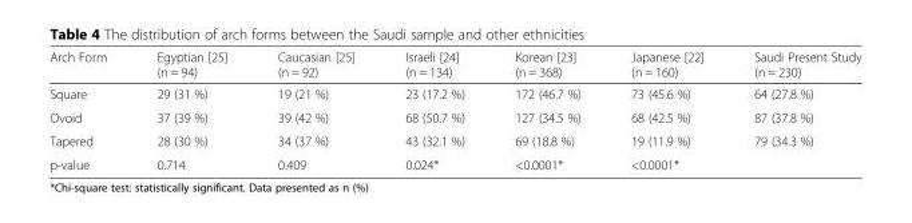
<table><thead><tr><td>Arch Form</td><td>Egyptian [25] (n = 94)</td><td>Caucasian [25] (n = 92)</td><td>Israeli [24] (n = 134)</td><td>Korean [23] (n = 368)</td><td>Japanese [22] (n = 160)</td><td>Saudi Present Study (n = 230)</td></tr></thead><tbody><tr><td>Square</td><td>29 (31 %)</td><td>19 (21 %)</td><td>23 (17.2 %)</td><td>172 (46.7 %)</td><td>73 (45.6 %)</td><td>64 (27.8 %)</td></tr><tr><td>Ovoid</td><td>37 (39 %)</td><td>39 (42 %)</td><td>68 (50.7 %)</td><td>127 (34.5 %)</td><td>68 (42.5 %)</td><td>87 (37.8 %)</td></tr><tr><td>Tapered</td><td>28 (30 %)</td><td>34 (37 %)</td><td>43 (32.1 %)</td><td>69 (18.8 %)</td><td>19 (11.9 %)</td><td>79 (34.3 %)</td></tr><tr><td>p-value</td><td>0.714</td><td>0.409</td><td>0.024*</td><td>&lt;0.0001*</td><td>&lt;0.0001*</td><td></td></tr></tbody></table>